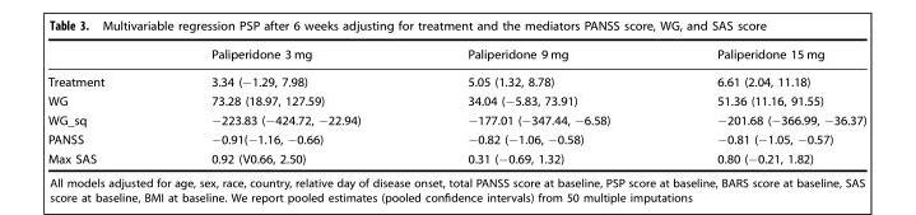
<table><thead><tr><td></td><td>Paliperidone 3 mg</td><td>Paliperidone 9 mg</td><td>Paliperidone 15 mg</td></tr></thead><tbody><tr><td>Treatment</td><td>3.34 (−1.29, 7.98)</td><td>5.05 (1.32, 8.78)</td><td>6.61 (2.04, 11.18)</td></tr><tr><td>WG</td><td>73.28 (18.97, 127.59)</td><td>34.04 (−5.83, 73.91)</td><td>51.36 (11.16, 91.55)</td></tr><tr><td>WG_sq</td><td>−223.83 (−424.72, −22.94)</td><td>−177.01 (−347.44, −6.58)</td><td>−201.68 (−366.99, −36.37)</td></tr><tr><td>PANSS</td><td>−0.91(−1.16, −0.66)</td><td>−0.82 (−1.06, −0.58)</td><td>−0.81 (−1.05, −0.57)</td></tr><tr><td>Max SAS</td><td>0.92 (V0.66, 2.50)</td><td>0.31 (−0.69, 1.32)</td><td>0.80 (−0.21, 1.82)</td></tr></tbody></table>